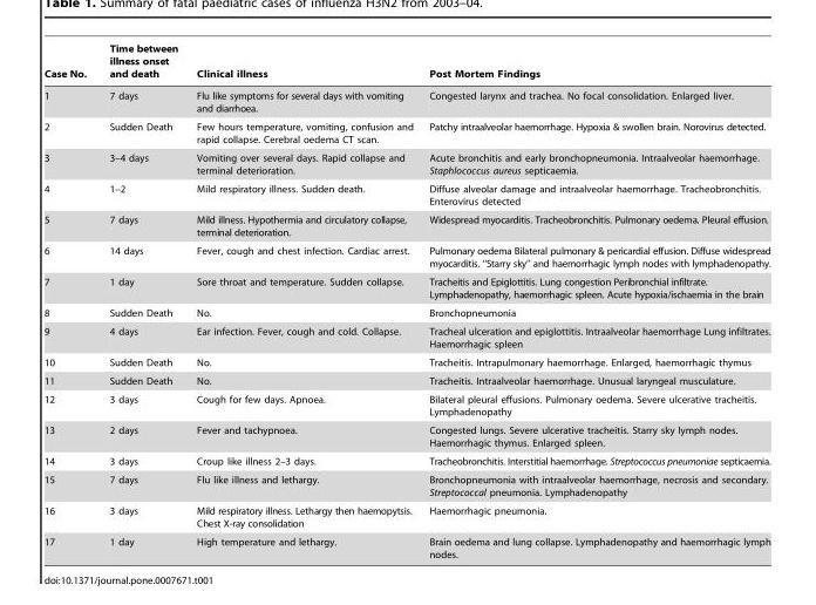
<table><thead><tr><td>Case No.</td><td>Time between illness onset and death</td><td>Clinical illness</td><td>Post Mortem Findings</td></tr></thead><tbody><tr><td>1</td><td>7 days</td><td>Flu like symptoms for several days with vomiting and diarrhoea.</td><td>Congested larynx and trachea. No focal consolidation. Enlarged liver.</td></tr><tr><td>2</td><td>Sudden Death</td><td>Few hours temperature, vomiting, confusion and rapid collapse. Cerebral oedema CT scan.</td><td>Patchy intraalveolar haemorrhage. Hypoxia &amp; swollen brain. Norovirus detected.</td></tr><tr><td>3</td><td>3–4 days</td><td>Vomiting over several days. Rapid collapse and terminal deterioration.</td><td>Acute bronchitis and early bronchopneumonia. Intraalveolar haemorrhage. Staphlococcus aureus septicaemia.</td></tr><tr><td>4</td><td>1–2</td><td>Mild respiratory illness. Sudden death.</td><td>Diffuse alveolar damage and intraalveolar haemorrhage. Tracheobronchitis. Enterovirus detected</td></tr><tr><td>5</td><td>7 days</td><td>Mild illness. Hypothermia and circulatory collapse, terminal deterioration.</td><td>Widespread myocarditis. Tracheobronchitis. Pulmonary oedema. Pleural effusion.</td></tr><tr><td>6</td><td>14 days</td><td>Fever, cough and chest infection. Cardiac arrest.</td><td>Pulmonary oedema Bilateral pulmonary &amp; pericardial effusion. Diffuse widespread myocarditis. ‘‘Starry sky’’ and haemorrhagic lymph nodes with lymphadenopathy.</td></tr><tr><td>7</td><td>1 day</td><td>Sore throat and temperature. Sudden collapse.</td><td>Tracheitis and Epiglottitis. Lung congestion Peribronchial infiltrate. Lymphadenopathy, haemorrhagic spleen. Acute hypoxia/ischaemia in the brain</td></tr><tr><td>8</td><td>Sudden Death</td><td>No.</td><td>Bronchopneumonia</td></tr><tr><td>9</td><td>4 days</td><td>Ear infection. Fever, cough and cold. Collapse.</td><td>Tracheal ulceration and epiglottitis. Intraalveolar haemorrhage Lung infiltrates. Haemorrhagic spleen</td></tr><tr><td>10</td><td>Sudden Death</td><td>No.</td><td>Tracheitis. Intrapulmonary haemorrhage. Enlarged, haemorrhagic thymus</td></tr><tr><td>11</td><td>Sudden Death</td><td>No.</td><td>Tracheitis. Intraalveolar haemorrhage. Unusual laryngeal musculature.</td></tr><tr><td>12</td><td>3 days</td><td>Cough for few days. Apnoea.</td><td>Bilateral pleural effusions. Pulmonary oedema. Severe ulcerative tracheitis. Lymphadenopathy</td></tr><tr><td>13</td><td>2 days</td><td>Fever and tachypnoea.</td><td>Congested lungs. Severe ulcerative tracheitis. Starry sky lymph nodes. Haemorrhagic thymus. Enlarged spleen.</td></tr><tr><td>14</td><td>3 days</td><td>Croup like illness 2–3 days.</td><td>Tracheobronchitis. Interstitial haemorrhage. Streptococcus pneumoniae septicaemia.</td></tr><tr><td>15</td><td>7 days</td><td>Flu like illness and lethargy.</td><td>Bronchopneumonia with intraalveolar haemorrhage, necrosis and secondary. Streptococcal pneumonia. Lymphadenopathy</td></tr><tr><td>16</td><td>3 days</td><td>Mild respiratory illness. Lethargy then haemopytsis. Chest X-ray consolidation</td><td>Haemorrhagic pneumonia.</td></tr><tr><td>17</td><td>1 day</td><td>High temperature and lethargy.</td><td>Brain oedema and lung collapse. Lymphadenopathy and haemorrhagic lymph nodes.</td></tr></tbody></table>